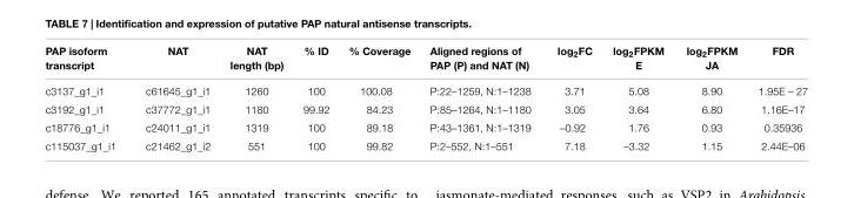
<table><thead><tr><td>PAP isoform transcript</td><td>NAT</td><td>NAT length (bp)</td><td>% ID</td><td>% Coverage</td><td>Aligned regions of PAP (P) and NAT (N)</td><td>log<sub>2</sub>FC</td><td>log<sub>2</sub>FPKM E</td><td>log<sub>2</sub>FPKM JA</td><td>FDR</td></tr></thead><tbody><tr><td>c3137_g1_i1</td><td>c61645_g1_i1</td><td>1260</td><td>100</td><td>100.08</td><td>P:22–1259, N:1–1238</td><td>3.71</td><td>5.08</td><td>8.90</td><td>1.95E – 27</td></tr><tr><td>c3192_g1_i1</td><td>c37772_g1_i1</td><td>1180</td><td>99.92</td><td>84.23</td><td>P:85–1264, N:1–1180</td><td>3.05</td><td>3.64</td><td>6.80</td><td>1.16E–17</td></tr><tr><td>c18776_g1_i1</td><td>c24011_g1_i1</td><td>1319</td><td>100</td><td>89.18</td><td>P:43–1361, N:1–1319</td><td>–0.92</td><td>1.76</td><td>0.93</td><td>0.35936</td></tr><tr><td>c115037_g1_i1</td><td>c21462_g1_i2</td><td>551</td><td>100</td><td>99.82</td><td>P:2–552, N:1–551</td><td>7.18</td><td>–3.32</td><td>1.15</td><td>2.44E–06</td></tr></tbody></table>